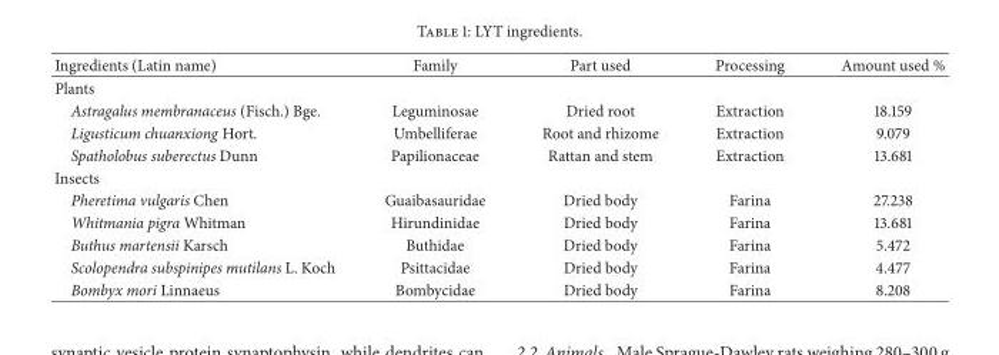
<table><thead><tr><td>Ingredients (Latin name)</td><td>Family</td><td>Part used</td><td>Processing</td><td>Amount used %</td></tr></thead><tbody><tr><td colspan="5">Plants</td></tr><tr><td>Astragalus membranaceus (Fisch.) Bge.</td><td>Leguminosae</td><td>Dried root</td><td>Extraction</td><td>18.159</td></tr><tr><td>Ligusticum chuanxiong Hort.</td><td>Umbelliferae</td><td>Root and rhizome</td><td>Extraction</td><td>9.079</td></tr><tr><td>Spatholobus suberectus Dunn</td><td>Papilionaceae</td><td>Rattan and stem</td><td>Extraction</td><td>13.681</td></tr><tr><td colspan="5">Insects</td></tr><tr><td>Pheretima vulgaris Chen</td><td>Guaibasauridae</td><td>Dried body</td><td>Farina</td><td>27.238</td></tr><tr><td>Whitmania pigra Whitman</td><td>Hirundinidae</td><td>Dried body</td><td>Farina</td><td>13.681</td></tr><tr><td>Buthus martensii Karsch</td><td>Buthidae</td><td>Dried body</td><td>Farina</td><td>5.472</td></tr><tr><td>Scolopendra subspinipes mutilans L. Koch</td><td>Psittacidae</td><td>Dried body</td><td>Farina</td><td>4.477</td></tr><tr><td>Bombyx mori Linnaeus</td><td>Bombycidae</td><td>Dried body</td><td>Farina</td><td>8.208</td></tr></tbody></table>